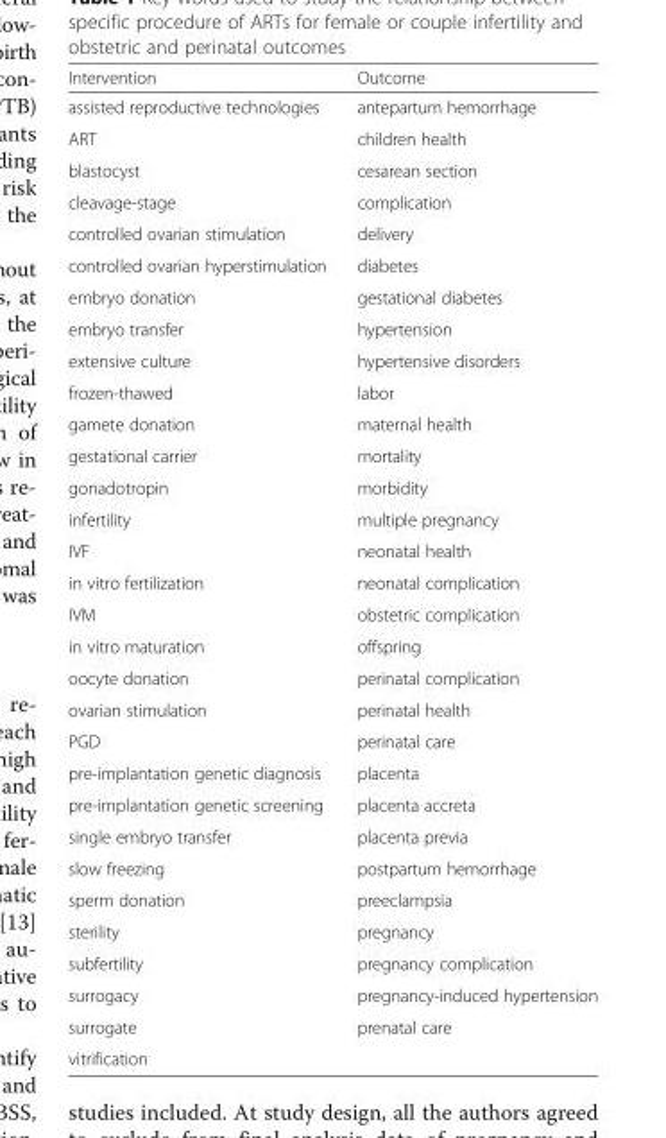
<table><thead><tr><td>Intervention</td><td>Outcome</td></tr></thead><tbody><tr><td>assisted reproductive technologies</td><td>antepartum hemorrhage</td></tr><tr><td>ART</td><td>children health</td></tr><tr><td>blastocyst</td><td>cesarean section</td></tr><tr><td>cleavage-stage</td><td>complication</td></tr><tr><td>controlled ovarian stimulation</td><td>delivery</td></tr><tr><td>controlled ovarian hyperstimulation</td><td>diabetes</td></tr><tr><td>embryo donation</td><td>gestational diabetes</td></tr><tr><td>embryo transfer</td><td>hypertension</td></tr><tr><td>extensive culture</td><td>hypertensive disorders</td></tr><tr><td>frozen-thawed</td><td>labor</td></tr><tr><td>gamete donation</td><td>maternal health</td></tr><tr><td>gestational carrier</td><td>mortality</td></tr><tr><td>gonadotropin</td><td>morbidity</td></tr><tr><td>infertility</td><td>multiple pregnancy</td></tr><tr><td>IVF</td><td>neonatal health</td></tr><tr><td>in vitro fertilization</td><td>neonatal complication</td></tr><tr><td>IVM</td><td>obstetric complication</td></tr><tr><td>in vitro maturation</td><td>offspring</td></tr><tr><td>oocyte donation</td><td>perinatal complication</td></tr><tr><td>ovarian stimulation</td><td>perinatal health</td></tr><tr><td>PGD</td><td>perinatal care</td></tr><tr><td>pre-implantation genetic diagnosis</td><td>placenta</td></tr><tr><td>pre-implantation genetic screening</td><td>placenta accreta</td></tr><tr><td>single embryo transfer</td><td>placenta previa</td></tr><tr><td>slow freezing</td><td>postpartum hemorrhage</td></tr><tr><td>sperm donation</td><td>preeclampsia</td></tr><tr><td>sterility</td><td>pregnancy</td></tr><tr><td>subfertility</td><td>pregnancy complication</td></tr><tr><td>surrogacy</td><td>pregnancy-induced hypertension</td></tr><tr><td>surrogate</td><td>prenatal care</td></tr><tr><td>vitrification</td><td></td></tr></tbody></table>